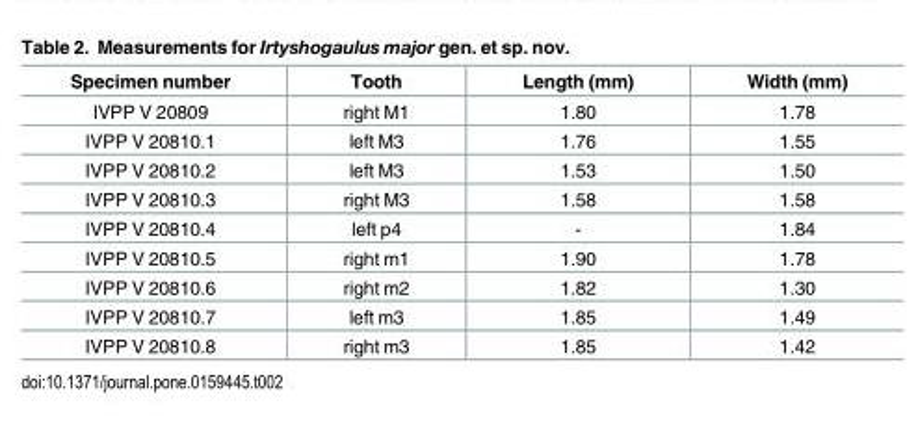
<table><thead><tr><td>Specimen number</td><td>Tooth</td><td>Length (mm)</td><td>Width (mm)</td></tr></thead><tbody><tr><td>IVPP V 20809</td><td>right M1</td><td>1.80</td><td>1.78</td></tr><tr><td>IVPP V 20810.1</td><td>left M3</td><td>1.76</td><td>1.55</td></tr><tr><td>IVPP V 20810.2</td><td>left M3</td><td>1.53</td><td>1.50</td></tr><tr><td>IVPP V 20810.3</td><td>right M3</td><td>1.58</td><td>1.58</td></tr><tr><td>IVPP V 20810.4</td><td>left p4</td><td>-</td><td>1.84</td></tr><tr><td>IVPP V 20810.5</td><td>right m1</td><td>1.90</td><td>1.78</td></tr><tr><td>IVPP V 20810.6</td><td>right m2</td><td>1.82</td><td>1.30</td></tr><tr><td>IVPP V 20810.7</td><td>left m3</td><td>1.85</td><td>1.49</td></tr><tr><td>IVPP V 20810.8</td><td>right m3</td><td>1.85</td><td>1.42</td></tr></tbody></table>